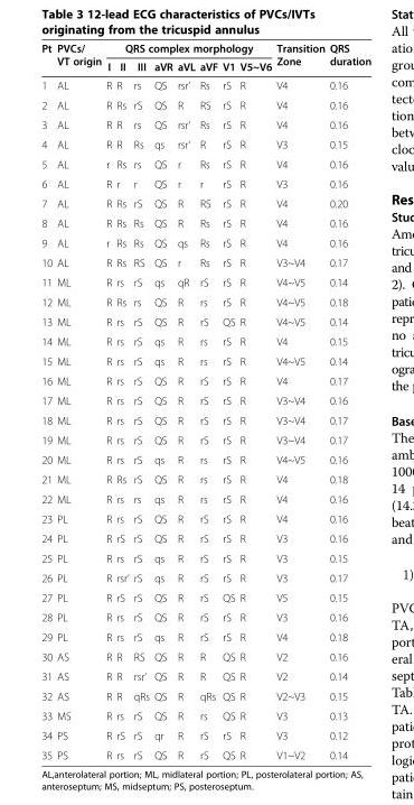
<table><thead><tr><td rowspan="2">Pt</td><td rowspan="2">PVCs/ VT origin</td><td colspan="8">QRS complex morphology</td><td rowspan="2">Transition Zone</td><td rowspan="2">QRS duration</td></tr><tr><td>I</td><td>II</td><td>III</td><td>aVR</td><td>aVL</td><td>aVF</td><td>V1</td><td>V5~V6</td></tr></thead><tbody><tr><td>1</td><td>AL</td><td>R</td><td>R</td><td>rs</td><td>QS</td><td>rsr’</td><td>Rs</td><td>rS</td><td>R</td><td>V4</td><td>0.16</td></tr><tr><td>2</td><td>AL</td><td>R</td><td>Rs</td><td>rS</td><td>QS</td><td>R</td><td>RS</td><td>rS</td><td>R</td><td>V4</td><td>0.16</td></tr><tr><td>3</td><td>AL</td><td>R</td><td>R</td><td>rs</td><td>QS</td><td>rsr’</td><td>Rs</td><td>rS</td><td>R</td><td>V4</td><td>0.16</td></tr><tr><td>4</td><td>AL</td><td>R</td><td>R</td><td>Rs</td><td>qs</td><td>rsr’</td><td>R</td><td>rS</td><td>R</td><td>V3</td><td>0.15</td></tr><tr><td>5</td><td>AL</td><td>r</td><td>Rs</td><td>rs</td><td>QS</td><td>r</td><td>Rs</td><td>rS</td><td>R</td><td>V4</td><td>0.16</td></tr><tr><td>6</td><td>AL</td><td>R</td><td>r</td><td>r</td><td>QS</td><td>r</td><td>r</td><td>rS</td><td>R</td><td>V3</td><td>0.16</td></tr><tr><td>7</td><td>AL</td><td>R</td><td>Rs</td><td>rS</td><td>QS</td><td>R</td><td>RS</td><td>rS</td><td>R</td><td>V4</td><td>0.20</td></tr><tr><td>8</td><td>AL</td><td>R</td><td>Rs</td><td>Rs</td><td>QS</td><td>R</td><td>Rs</td><td>rS</td><td>R</td><td>V4</td><td>0.16</td></tr><tr><td>9</td><td>AL</td><td>r</td><td>Rs</td><td>Rs</td><td>QS</td><td>qs</td><td>Rs</td><td>rS</td><td>R</td><td>V4</td><td>0.16</td></tr><tr><td>10</td><td>AL</td><td>R</td><td>Rs</td><td>RS</td><td>QS</td><td>r</td><td>Rs</td><td>rS</td><td>R</td><td>V3~V4</td><td>0.17</td></tr><tr><td>11</td><td>ML</td><td>R</td><td>rs</td><td>rS</td><td>qs</td><td>qR</td><td>rS</td><td>rS</td><td>R</td><td>V4~V5</td><td>0.14</td></tr><tr><td>12</td><td>ML</td><td>R</td><td>Rs</td><td>rs</td><td>QS</td><td>R</td><td>rs</td><td>rS</td><td>R</td><td>V4~V5</td><td>0.18</td></tr><tr><td>13</td><td>ML</td><td>R</td><td>rs</td><td>rS</td><td>QS</td><td>R</td><td>rS</td><td>QS</td><td>R</td><td>V4~V5</td><td>0.14</td></tr><tr><td>14</td><td>ML</td><td>R</td><td>rs</td><td>rS</td><td>qs</td><td>R</td><td>rs</td><td>rS</td><td>R</td><td>V4</td><td>0.15</td></tr><tr><td>15</td><td>ML</td><td>R</td><td>rs</td><td>rS</td><td>qs</td><td>R</td><td>rs</td><td>rS</td><td>R</td><td>V4~V5</td><td>0.14</td></tr><tr><td>16</td><td>ML</td><td>R</td><td>rs</td><td>rS</td><td>QS</td><td>R</td><td>rS</td><td>rS</td><td>R</td><td>V4</td><td>0.17</td></tr><tr><td>17</td><td>ML</td><td>R</td><td>rs</td><td>rS</td><td>QS</td><td>R</td><td>rS</td><td>rS</td><td>R</td><td>V3~V4</td><td>0.16</td></tr><tr><td>18</td><td>ML</td><td>R</td><td>rs</td><td>rS</td><td>QS</td><td>R</td><td>rS</td><td>rS</td><td>R</td><td>V3~V4</td><td>0.17</td></tr><tr><td>19</td><td>ML</td><td>R</td><td>rs</td><td>rS</td><td>QS</td><td>R</td><td>rS</td><td>rS</td><td>R</td><td>V3~V4</td><td>0.17</td></tr><tr><td>20</td><td>ML</td><td>R</td><td>rs</td><td>rS</td><td>qs</td><td>R</td><td>rs</td><td>rS</td><td>R</td><td>V4~V5</td><td>0.16</td></tr><tr><td>21</td><td>ML</td><td>R</td><td>Rs</td><td>rS</td><td>QS</td><td>R</td><td>rs</td><td>rS</td><td>R</td><td>V4</td><td>0.18</td></tr><tr><td>22</td><td>ML</td><td>R</td><td>rs</td><td>rs</td><td>qs</td><td>R</td><td>rs</td><td>rS</td><td>R</td><td>V4</td><td>0.16</td></tr><tr><td>23</td><td>PL</td><td>R</td><td>rs</td><td>rS</td><td>QS</td><td>R</td><td>rS</td><td>rS</td><td>R</td><td>V4</td><td>0.16</td></tr><tr><td>24</td><td>PL</td><td>R</td><td>rS</td><td>rS</td><td>QS</td><td>R</td><td>rS</td><td>rS</td><td>R</td><td>V3</td><td>0.16</td></tr><tr><td>25</td><td>PL</td><td>R</td><td>rs</td><td>rS</td><td>qs</td><td>R</td><td>rS</td><td>rS</td><td>R</td><td>V3</td><td>0.15</td></tr><tr><td>26</td><td>PL</td><td>R</td><td>rsr’</td><td>rS</td><td>qs</td><td>R</td><td>rS</td><td>rS</td><td>R</td><td>V3</td><td>0.17</td></tr><tr><td>27</td><td>PL</td><td>R</td><td>rS</td><td>rS</td><td>QS</td><td>R</td><td>rS</td><td>QS</td><td>R</td><td>V5</td><td>0.15</td></tr><tr><td>28</td><td>PL</td><td>R</td><td>rs</td><td>rS</td><td>QS</td><td>R</td><td>rS</td><td>rS</td><td>R</td><td>V3</td><td>0.16</td></tr><tr><td>29</td><td>PL</td><td>R</td><td>rs</td><td>rS</td><td>qs</td><td>R</td><td>rS</td><td>rS</td><td>R</td><td>V4</td><td>0.18</td></tr><tr><td>30</td><td>AS</td><td>R</td><td>R</td><td>RS</td><td>QS</td><td>R</td><td>R</td><td>QS</td><td>R</td><td>V2</td><td>0.16</td></tr><tr><td>31</td><td>AS</td><td>R</td><td>R</td><td>rsr’</td><td>QS</td><td>R</td><td>R</td><td>QS</td><td>R</td><td>V2</td><td>0.14</td></tr><tr><td>32</td><td>AS</td><td>R</td><td>R</td><td>qRs</td><td>QS</td><td>R</td><td>qRs</td><td>QS</td><td>R</td><td>V2~V3</td><td>0.15</td></tr><tr><td>33</td><td>MS</td><td>R</td><td>rs</td><td>rS</td><td>QS</td><td>R</td><td>rs</td><td>QS</td><td>R</td><td>V3</td><td>0.13</td></tr><tr><td>34</td><td>PS</td><td>R</td><td>rS</td><td>rS</td><td>qr</td><td>R</td><td>rS</td><td>rS</td><td>R</td><td>V3</td><td>0.12</td></tr><tr><td>35</td><td>PS</td><td>R</td><td>rs</td><td>rS</td><td>QS</td><td>R</td><td>rS</td><td>QS</td><td>R</td><td>V1~V2</td><td>0.14</td></tr></tbody></table>